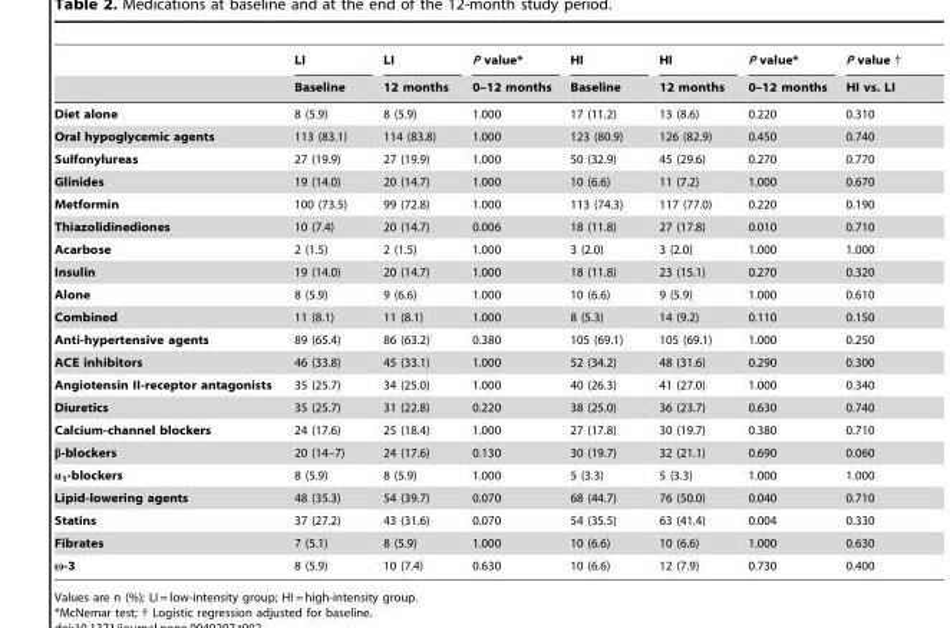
<table><thead><tr><td rowspan="2"></td><td rowspan="2">LI Baseline</td><td rowspan="2">LI 12 months</td><td rowspan="2">P value* 0–12 months</td><td rowspan="2">HI Baseline</td><td rowspan="2">HI 12 months</td><td rowspan="2">P value* 0–12 months</td><td rowspan="2">P value HI vs. LI</td></tr><tr></tr></thead><tbody><tr><td>Diet alone</td><td>8 (5.9)</td><td>8 (5.9)</td><td>1.000</td><td>17 (11.2)</td><td>13 (8.6)</td><td>0.220</td><td>0.310</td></tr><tr><td>Oral hypoglycemic agents</td><td>113 (83.1)</td><td>114 (83.8)</td><td>1.000</td><td>123 (80.9)</td><td>126 (82.9)</td><td>0.450</td><td>0.740</td></tr><tr><td>Sulfonylureas</td><td>27 (19.9)</td><td>27 (19.9)</td><td>1.000</td><td>50 (32.9)</td><td>45 (29.6)</td><td>0.270</td><td>0.770</td></tr><tr><td>Glinides</td><td>19 (14.0)</td><td>20 (14.7)</td><td>1.000</td><td>10 (6.6)</td><td>11 (7.2)</td><td>1.000</td><td>0.670</td></tr><tr><td>Metformin</td><td>100 (73.5)</td><td>99 (72.8)</td><td>1.000</td><td>113 (74.3)</td><td>117 (77.0)</td><td>0.220</td><td>0.190</td></tr><tr><td>Thiazolidinediones</td><td>10 (7.4)</td><td>20 (14.7)</td><td>0.006</td><td>18 (11.8)</td><td>27 (17.8)</td><td>0.010</td><td>0.710</td></tr><tr><td>Acarbose</td><td>2 (1.5)</td><td>2 (1.5)</td><td>1.000</td><td>3 (2.0)</td><td>3 (2.0)</td><td>1.000</td><td>1.000</td></tr><tr><td>Insulin</td><td>19 (14.0)</td><td>20 (14.7)</td><td>1.000</td><td>18 (11.8)</td><td>23 (15.1)</td><td>0.270</td><td>0.320</td></tr><tr><td>Alone</td><td>8 (5.9)</td><td>9 (6.6)</td><td>1.000</td><td>10 (6.6)</td><td>9 (5.9)</td><td>1.000</td><td>0.610</td></tr><tr><td>Combined</td><td>11 (8.1)</td><td>11 (8.1)</td><td>1.000</td><td>8 (5.3)</td><td>14 (9.2)</td><td>0.110</td><td>0.150</td></tr><tr><td>Anti-hypertensive agents</td><td>89 (65.4)</td><td>86 (63.2)</td><td>0.380</td><td>105 (69.1)</td><td>105 (69.1)</td><td>1.000</td><td>0.250</td></tr><tr><td>ACE inhibitors</td><td>46 (33.8)</td><td>45 (33.1)</td><td>1.000</td><td>52 (34.2)</td><td>48 (31.6)</td><td>0.290</td><td>0.300</td></tr><tr><td>Angiotensin II-receptor antagonists</td><td>35 (25.7)</td><td>34 (25.0)</td><td>1.000</td><td>40 (26.3)</td><td>41 (27.0)</td><td>1.000</td><td>0.340</td></tr><tr><td>Diuretics</td><td>35 (25.7)</td><td>31 (22.8)</td><td>0.220</td><td>38 (25.0)</td><td>36 (23.7)</td><td>0.630</td><td>0.740</td></tr><tr><td>Calcium-channel blockers</td><td>24 (17.6)</td><td>25 (18.4)</td><td>1.000</td><td>27 (17.8)</td><td>30 (19.7)</td><td>0.380</td><td>0.710</td></tr><tr><td>β-blockers</td><td>20 (14–7)</td><td>24 (17.6)</td><td>0.130</td><td>30 (19.7)</td><td>32 (21.1)</td><td>0.690</td><td>0.060</td></tr><tr><td>α<sub>1</sub>-blockers</td><td>8 (5.9)</td><td>8 (5.9)</td><td>1.000</td><td>5 (3.3)</td><td>5 (3.3)</td><td>1.000</td><td>1.000</td></tr><tr><td>Lipid-lowering agents</td><td>48 (35.3)</td><td>54 (39.7)</td><td>0.070</td><td>68 (44.7)</td><td>76 (50.0)</td><td>0.040</td><td>0.710</td></tr><tr><td>Statins</td><td>37 (27.2)</td><td>43 (31.6)</td><td>0.070</td><td>54 (35.5)</td><td>63 (41.4)</td><td>0.004</td><td>0.330</td></tr><tr><td>Fibrates</td><td>7 (5.1)</td><td>8 (5.9)</td><td>1.000</td><td>10 (6.6)</td><td>10 (6.6)</td><td>1.000</td><td>0.630</td></tr><tr><td>ω-3</td><td>8 (5.9)</td><td>10 (7.4)</td><td>0.630</td><td>10 (6.6)</td><td>12 (7.9)</td><td>0.730</td><td>0.400</td></tr></tbody></table>